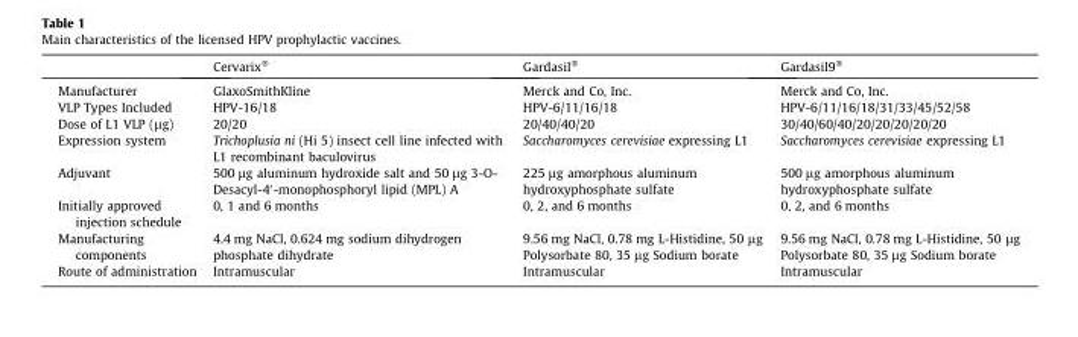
<table><thead><tr><td></td><td>Cervarix®</td><td>Gardasil®</td><td>Gardasil9®</td></tr></thead><tbody><tr><td>Manufacturer</td><td>GlaxoSmithKline</td><td>Merck and Co, Inc.</td><td>Merck and Co, Inc.</td></tr><tr><td>VLP Types Included</td><td>HPV-16/18</td><td>HPV-6/11/16/18</td><td>HPV-6/11/16/18/31/33/45/52/58</td></tr><tr><td>Dose of L1 VLP (μg)</td><td>20/20</td><td>20/40/40/20</td><td>30/40/60/40/20/20/20/20/20</td></tr><tr><td>Expression system</td><td>Trichoplusia ni (Hi 5) insect cell line infected with L1 recombinant baculovirus</td><td>Saccharomyces cerevisiae expressing L1</td><td>Saccharomyces cerevisiae expressing L1</td></tr><tr><td>Adjuvant</td><td>500 μg aluminum hydroxide salt and 50 μg 3-O- Desacyl-4′-monophosphoryl lipid (MPL) A</td><td>225 μg amorphous aluminum hydroxyphosphate sulfate</td><td>500 μg amorphous aluminum hydroxyphosphate sulfate</td></tr><tr><td>Initially approved injection schedule</td><td>0, 1 and 6 months</td><td>0, 2, and 6 months</td><td>0, 2, and 6 months</td></tr><tr><td>Manufacturing components</td><td>4.4 mg NaCl, 0.624 mg sodium dihydrogen phosphate dihydrate</td><td>9.56 mg NaCl, 0.78 mg L-Histidine, 50 μg Polysorbate 80, 35 μg Sodium borate</td><td>9.56 mg NaCl, 0.78 mg L-Histidine, 50 μg Polysorbate 80, 35 μg Sodium borate</td></tr><tr><td>Route of administration</td><td>Intramuscular</td><td>Intramuscular</td><td>Intramuscular</td></tr></tbody></table>